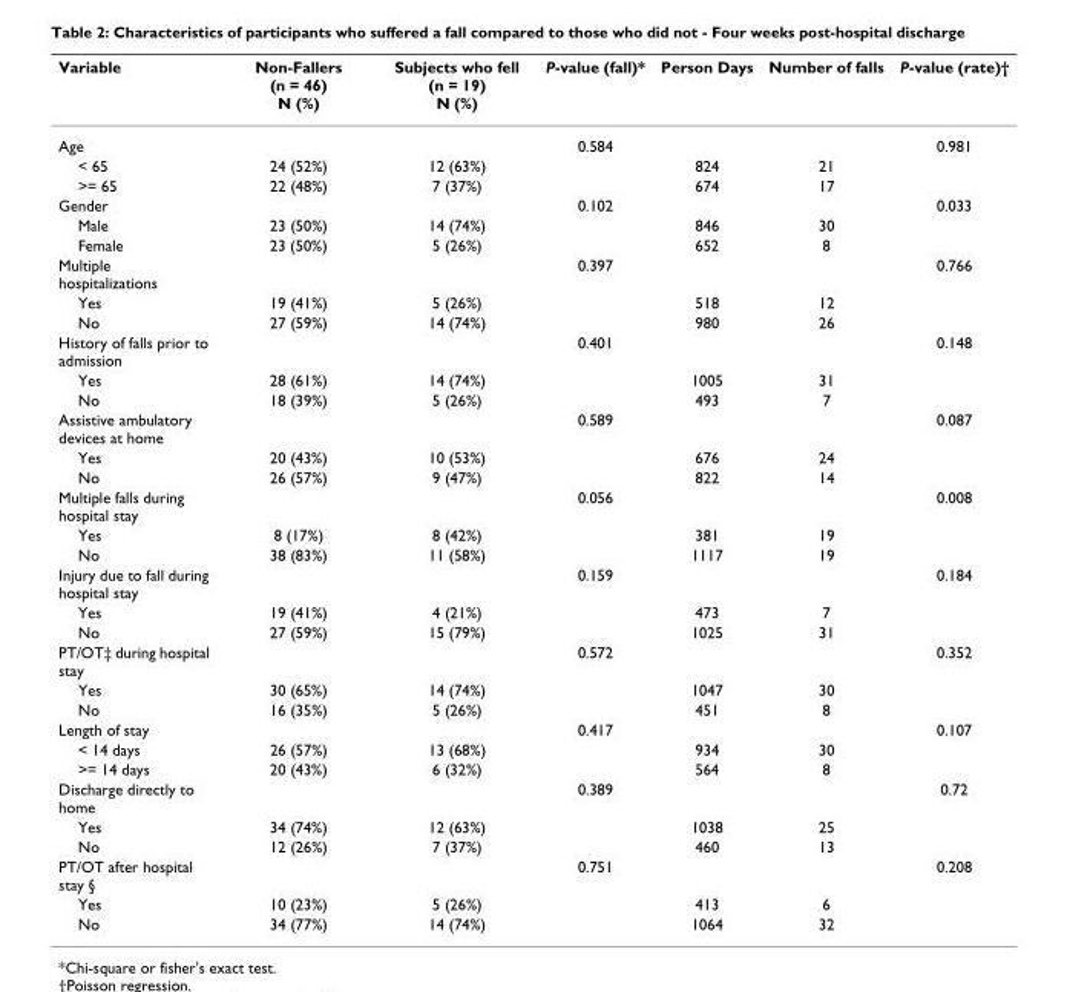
<table><thead><tr><td>Variable</td><td>Non-Fallers (n = 46) N (%)</td><td>Subjects who fell (n = 19) N (%)</td><td>P-value (fall)*</td><td>Person Days</td><td>Number of falls</td><td>P-value (rate)†</td></tr></thead><tbody><tr><td>Age</td><td></td><td></td><td>0.584</td><td></td><td></td><td>0.981</td></tr><tr><td>&lt; 65</td><td>24 (52%)</td><td>12 (63%)</td><td></td><td>824</td><td>21</td><td></td></tr><tr><td>&gt;= 65</td><td>22 (48%)</td><td>7 (37%)</td><td></td><td>674</td><td>17</td><td></td></tr><tr><td>Gender</td><td></td><td></td><td>0.102</td><td></td><td></td><td>0.033</td></tr><tr><td>Male</td><td>23 (50%)</td><td>14 (74%)</td><td></td><td>846</td><td>30</td><td></td></tr><tr><td>Female</td><td>23 (50%)</td><td>5 (26%)</td><td></td><td>652</td><td>8</td><td></td></tr><tr><td>Multiple hospitalizations</td><td></td><td></td><td>0.397</td><td></td><td></td><td>0.766</td></tr><tr><td>Yes</td><td>19 (41%)</td><td>5 (26%)</td><td></td><td>518</td><td>12</td><td></td></tr><tr><td>No</td><td>27 (59%)</td><td>14 (74%)</td><td></td><td>980</td><td>26</td><td></td></tr><tr><td>History of falls prior to admission</td><td></td><td></td><td>0.401</td><td></td><td></td><td>0.148</td></tr><tr><td>Yes</td><td>28 (61%)</td><td>14 (74%)</td><td></td><td>1005</td><td>31</td><td></td></tr><tr><td>No</td><td>18 (39%)</td><td>5 (26%)</td><td></td><td>493</td><td>7</td><td></td></tr><tr><td>Assistive ambulatory devices at home</td><td></td><td></td><td>0.589</td><td></td><td></td><td>0.087</td></tr><tr><td>Yes</td><td>20 (43%)</td><td>10 (53%)</td><td></td><td>676</td><td>24</td><td></td></tr><tr><td>No</td><td>26 (57%)</td><td>9 (47%)</td><td></td><td>822</td><td>14</td><td></td></tr><tr><td>Multiple falls during hospital stay</td><td></td><td></td><td>0.056</td><td></td><td></td><td>0.008</td></tr><tr><td>Yes</td><td>8 (17%)</td><td>8 (42%)</td><td></td><td>381</td><td>19</td><td></td></tr><tr><td>No</td><td>38 (83%)</td><td>11 (58%)</td><td></td><td>1117</td><td>19</td><td></td></tr><tr><td>Injury due to fall during hospital stay</td><td></td><td></td><td>0.159</td><td></td><td></td><td>0.184</td></tr><tr><td>Yes</td><td>19 (41%)</td><td>4 (21%)</td><td></td><td>473</td><td>7</td><td></td></tr><tr><td>No</td><td>27 (59%)</td><td>15 (79%)</td><td></td><td>1025</td><td>31</td><td></td></tr><tr><td>PT/OT‡ during hospital stay</td><td></td><td></td><td>0.572</td><td></td><td></td><td>0.352</td></tr><tr><td>Yes</td><td>30 (65%)</td><td>14 (74%)</td><td></td><td>1047</td><td>30</td><td></td></tr><tr><td>No</td><td>16 (35%)</td><td>5 (26%)</td><td></td><td>451</td><td>8</td><td></td></tr><tr><td>Length of stay</td><td></td><td></td><td>0.417</td><td></td><td></td><td>0.107</td></tr><tr><td>&lt; 14 days</td><td>26 (57%)</td><td>13 (68%)</td><td></td><td>934</td><td>30</td><td></td></tr><tr><td>&gt;= 14 days</td><td>20 (43%)</td><td>6 (32%)</td><td></td><td>564</td><td>8</td><td></td></tr><tr><td>Discharge directly to home</td><td></td><td></td><td>0.389</td><td></td><td></td><td>0.72</td></tr><tr><td>Yes</td><td>34 (74%)</td><td>12 (63%)</td><td></td><td>1038</td><td>25</td><td></td></tr><tr><td>No</td><td>12 (26%)</td><td>7 (37%)</td><td></td><td>460</td><td>13</td><td></td></tr><tr><td>PT/OT after hospital stay §</td><td></td><td></td><td>0.751</td><td></td><td></td><td>0.208</td></tr><tr><td>Yes</td><td>10 (23%)</td><td>5 (26%)</td><td></td><td>413</td><td>6</td><td></td></tr><tr><td>No</td><td>34 (77%)</td><td>14 (74%)</td><td></td><td>1064</td><td>32</td><td></td></tr></tbody></table>